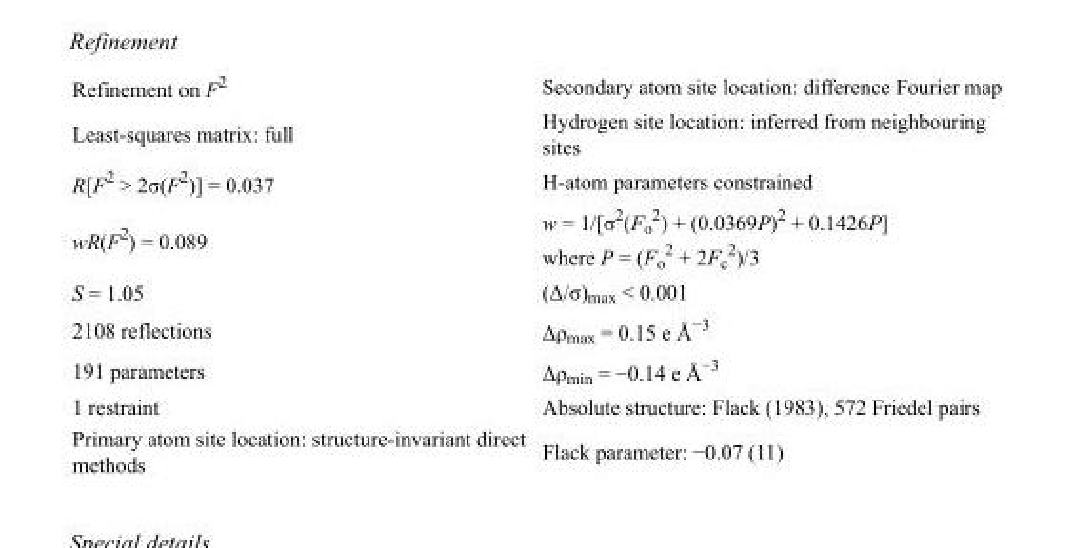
<table><tbody><tr><td>Refinement on F<sup>2</sup></td><td>Secondary atom site location: difference Fourier map</td></tr><tr><td>Least-squares matrix: full</td><td>Hydrogen site location: inferred from neighbouring sites</td></tr><tr><td>R[F<sup>2</sup> &gt; 2σ(F<sup>2</sup>)] = 0.037</td><td>H-atom parameters constrained</td></tr><tr><td>wR(F<sup>2</sup>) = 0.089</td><td>w = 1/[σ<sup>2</sup>(F<sub>o</sub> <sup>2</sup>) + (0.0369P)<sup>2</sup> + 0.1426P] where P = (F<sub>o</sub> <sup>2</sup> + 2F<sub>c</sub> <sup>2</sup>)/3</td></tr><tr><td>S = 1.05</td><td>(Δ/σ)<sub>max</sub> &lt; 0.001</td></tr><tr><td>2108 reflections</td><td>Δρ<sub>max</sub> = 0.15 e Å<sup>−3</sup></td></tr><tr><td>191 parameters</td><td>Δρ<sub>min</sub> = −0.14 e Å<sup>−3</sup></td></tr><tr><td>1 restraint</td><td>Absolute structure: Flack (1983), 572 Friedel pairs</td></tr><tr><td>Primary atom site location: structure-invariant direct methods</td><td>Flack parameter: −0.07 (11)</td></tr></tbody></table>